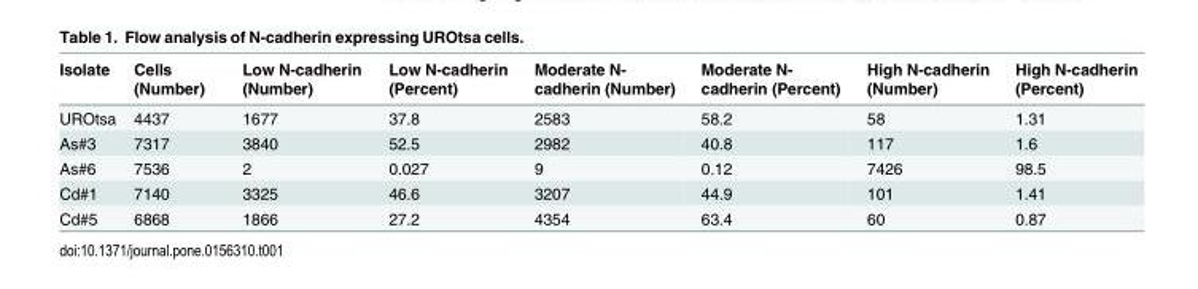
<table><thead><tr><td>Isolate</td><td>Cells (Number)</td><td>Low N-cadherin (Number)</td><td>Low N-cadherin (Percent)</td><td>Moderate N- cadherin (Number)</td><td>Moderate N- cadherin (Percent)</td><td>High N-cadherin (Number)</td><td>High N-cadherin (Percent)</td></tr></thead><tbody><tr><td>UROtsa</td><td>4437</td><td>1677</td><td>37.8</td><td>2583</td><td>58.2</td><td>58</td><td>1.31</td></tr><tr><td>As#3</td><td>7317</td><td>3840</td><td>52.5</td><td>2982</td><td>40.8</td><td>117</td><td>1.6</td></tr><tr><td>As#6</td><td>7536</td><td>2</td><td>0.027</td><td>9</td><td>0.12</td><td>7426</td><td>98.5</td></tr><tr><td>Cd#1</td><td>7140</td><td>3325</td><td>46.6</td><td>3207</td><td>44.9</td><td>101</td><td>1.41</td></tr><tr><td>Cd#5</td><td>6868</td><td>1866</td><td>27.2</td><td>4354</td><td>63.4</td><td>60</td><td>0.87</td></tr></tbody></table>